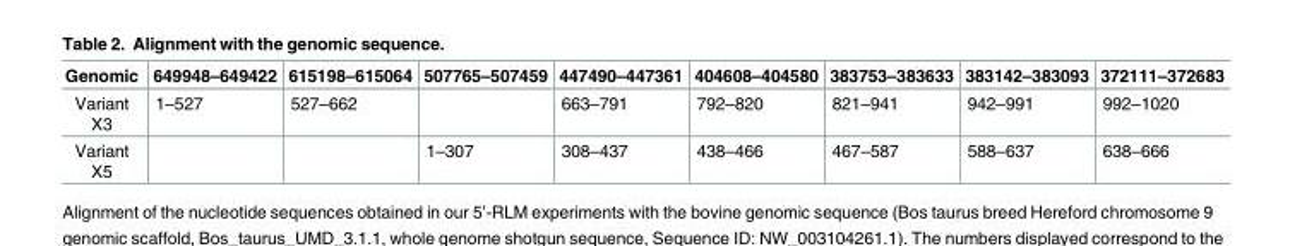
<table><thead><tr><td>Genomic</td><td>649948–649422</td><td>615198–615064</td><td>507765–507459</td><td>447490–447361</td><td>404608–404580</td><td>383753–383633</td><td>383142–383093</td><td>372111–372683</td></tr></thead><tbody><tr><td>Variant X3</td><td>1–527</td><td>527–662</td><td></td><td>663–791</td><td>792–820</td><td>821–941</td><td>942–991</td><td>992–1020</td></tr><tr><td>Variant X5</td><td></td><td></td><td>1–307</td><td>308–437</td><td>438–466</td><td>467–587</td><td>588–637</td><td>638–666</td></tr></tbody></table>